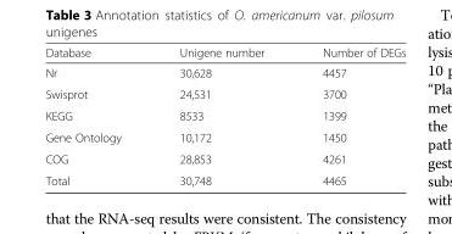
<table><thead><tr><td>Database</td><td>Unigene number</td><td>Number of DEGs</td></tr></thead><tbody><tr><td>Nr</td><td>30,628</td><td>4457</td></tr><tr><td>Swisprot</td><td>24,531</td><td>3700</td></tr><tr><td>KEGG</td><td>8533</td><td>1399</td></tr><tr><td>Gene Ontology</td><td>10,172</td><td>1450</td></tr><tr><td>COG</td><td>28,853</td><td>4261</td></tr><tr><td>Total</td><td>30,748</td><td>4465</td></tr></tbody></table>